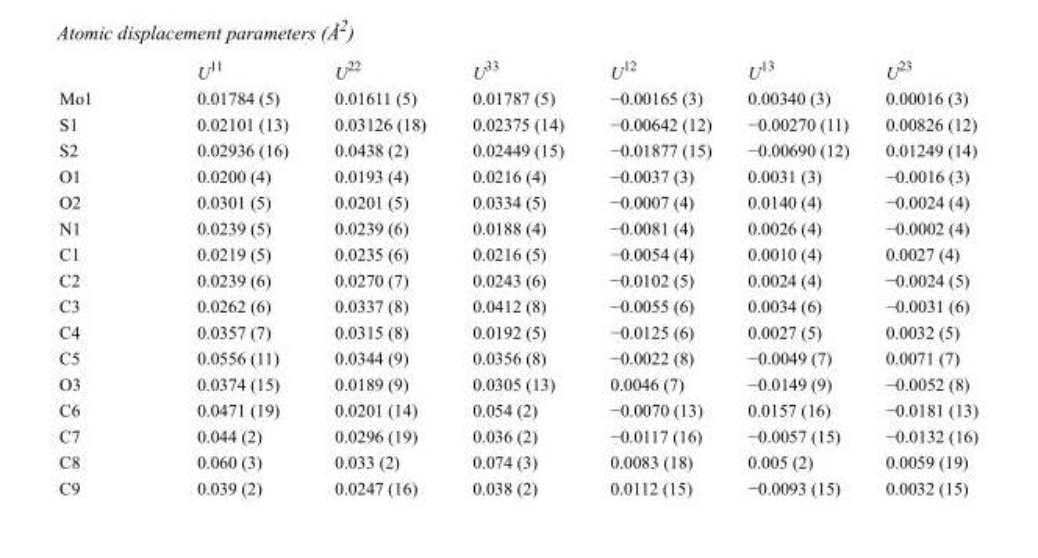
<table><thead><tr><td></td><td>U<sup>11</sup></td><td>U<sup>22</sup></td><td>U<sup>33</sup></td><td>U<sup>12</sup></td><td>U<sup>13</sup></td><td>U<sup>23</sup></td></tr></thead><tbody><tr><td>Mo1</td><td>0.01784 (5)</td><td>0.01611 (5)</td><td>0.01787 (5)</td><td>−0.00165 (3)</td><td>0.00340 (3)</td><td>0.00016 (3)</td></tr><tr><td>S1</td><td>0.02101 (13)</td><td>0.03126 (18)</td><td>0.02375 (14)</td><td>−0.00642 (12)</td><td>−0.00270 (11)</td><td>0.00826 (12)</td></tr><tr><td>S2</td><td>0.02936 (16)</td><td>0.0438 (2)</td><td>0.02449 (15)</td><td>−0.01877 (15)</td><td>−0.00690 (12)</td><td>0.01249 (14)</td></tr><tr><td>O1</td><td>0.0200 (4)</td><td>0.0193 (4)</td><td>0.0216 (4)</td><td>−0.0037 (3)</td><td>0.0031 (3)</td><td>−0.0016 (3)</td></tr><tr><td>O2</td><td>0.0301 (5)</td><td>0.0201 (5)</td><td>0.0334 (5)</td><td>−0.0007 (4)</td><td>0.0140 (4)</td><td>−0.0024 (4)</td></tr><tr><td>N1</td><td>0.0239 (5)</td><td>0.0239 (6)</td><td>0.0188 (4)</td><td>−0.0081 (4)</td><td>0.0026 (4)</td><td>−0.0002 (4)</td></tr><tr><td>C1</td><td>0.0219 (5)</td><td>0.0235 (6)</td><td>0.0216 (5)</td><td>−0.0054 (4)</td><td>0.0010 (4)</td><td>0.0027 (4)</td></tr><tr><td>C2</td><td>0.0239 (6)</td><td>0.0270 (7)</td><td>0.0243 (6)</td><td>−0.0102 (5)</td><td>0.0024 (4)</td><td>−0.0024 (5)</td></tr><tr><td>C3</td><td>0.0262 (6)</td><td>0.0337 (8)</td><td>0.0412 (8)</td><td>−0.0055 (6)</td><td>0.0034 (6)</td><td>−0.0031 (6)</td></tr><tr><td>C4</td><td>0.0357 (7)</td><td>0.0315 (8)</td><td>0.0192 (5)</td><td>−0.0125 (6)</td><td>0.0027 (5)</td><td>0.0032 (5)</td></tr><tr><td>C5</td><td>0.0556 (11)</td><td>0.0344 (9)</td><td>0.0356 (8)</td><td>−0.0022 (8)</td><td>−0.0049 (7)</td><td>0.0071 (7)</td></tr><tr><td>O3</td><td>0.0374 (15)</td><td>0.0189 (9)</td><td>0.0305 (13)</td><td>0.0046 (7)</td><td>−0.0149 (9)</td><td>−0.0052 (8)</td></tr><tr><td>C6</td><td>0.0471 (19)</td><td>0.0201 (14)</td><td>0.054 (2)</td><td>−0.0070 (13)</td><td>0.0157 (16)</td><td>−0.0181 (13)</td></tr><tr><td>C7</td><td>0.044 (2)</td><td>0.0296 (19)</td><td>0.036 (2)</td><td>−0.0117 (16)</td><td>−0.0057 (15)</td><td>−0.0132 (16)</td></tr><tr><td>C8</td><td>0.060 (3)</td><td>0.033 (2)</td><td>0.074 (3)</td><td>0.0083 (18)</td><td>0.005 (2)</td><td>0.0059 (19)</td></tr><tr><td>C9</td><td>0.039 (2)</td><td>0.0247 (16)</td><td>0.038 (2)</td><td>0.0112 (15)</td><td>−0.0093 (15)</td><td>0.0032 (15)</td></tr></tbody></table>